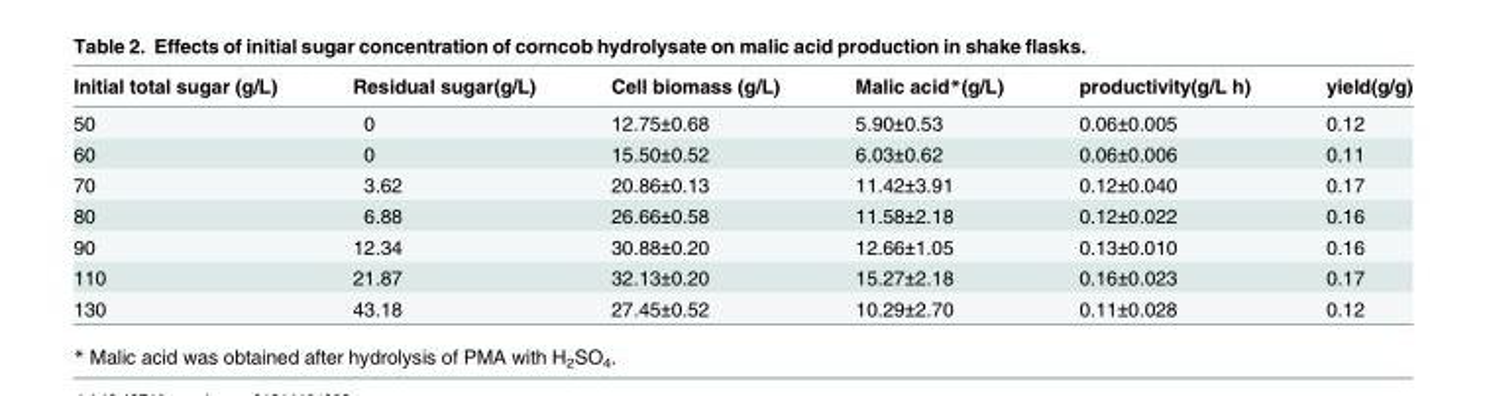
<table><thead><tr><td>Initial total sugar (g/L)</td><td>Residual sugar(g/L)</td><td>Cell biomass (g/L)</td><td>Malic acid*(g/L)</td><td>productivity(g/L h)</td><td>yield(g/g)</td></tr></thead><tbody><tr><td>50</td><td>0</td><td>12.75±0.68</td><td>5.90±0.53</td><td>0.06±0.005</td><td>0.12</td></tr><tr><td>60</td><td>0</td><td>15.50±0.52</td><td>6.03±0.62</td><td>0.06±0.006</td><td>0.11</td></tr><tr><td>70</td><td>3.62</td><td>20.86±0.13</td><td>11.42±3.91</td><td>0.12±0.040</td><td>0.17</td></tr><tr><td>80</td><td>6.88</td><td>26.66±0.58</td><td>11.58±2.18</td><td>0.12±0.022</td><td>0.16</td></tr><tr><td>90</td><td>12.34</td><td>30.88±0.20</td><td>12.66±1.05</td><td>0.13±0.010</td><td>0.16</td></tr><tr><td>110</td><td>21.87</td><td>32.13±0.20</td><td>15.27±2.18</td><td>0.16±0.023</td><td>0.17</td></tr><tr><td>130</td><td>43.18</td><td>27.45±0.52</td><td>10.29±2.70</td><td>0.11±0.028</td><td>0.12</td></tr></tbody></table>